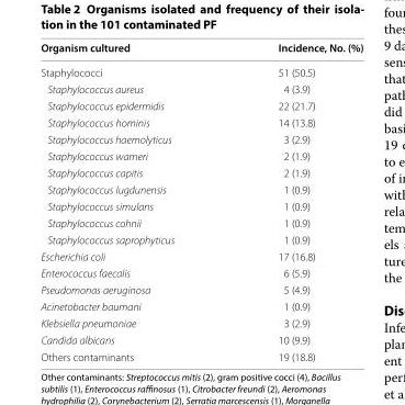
<table><thead><tr><td>Organism cultured</td><td>Incidence, No. (%)</td></tr></thead><tbody><tr><td>Staphylococci</td><td>51 (50.5)</td></tr><tr><td>Staphylococcus aureus</td><td>4 (3.9)</td></tr><tr><td>Staphylococcus epidermidis</td><td>22 (21.7)</td></tr><tr><td>Staphylococcus hominis</td><td>14 (13.8)</td></tr><tr><td>Staphylococcus haemolyticus</td><td>3 (2.9)</td></tr><tr><td>Staphylococcus warneri</td><td>2 (1.9)</td></tr><tr><td>Staphylococcus capitis</td><td>2 (1.9)</td></tr><tr><td>Staphylococcus lugdunensis</td><td>1 (0.9)</td></tr><tr><td>Staphylococcus simulans</td><td>1 (0.9)</td></tr><tr><td>Staphylococcus cohnii</td><td>1 (0.9)</td></tr><tr><td>Staphylococcus saprophyticus</td><td>1 (0.9)</td></tr><tr><td>Escherichia coli</td><td>17 (16.8)</td></tr><tr><td>Enterococcus faecalis</td><td>6 (5.9)</td></tr><tr><td>Pseudomonas aeruginosa</td><td>5 (4.9)</td></tr><tr><td>Acinetobacter baumani</td><td>1 (0.9)</td></tr><tr><td>Klebsiella pneumoniae</td><td>3 (2.9)</td></tr><tr><td>Candida albicans</td><td>10 (9.9)</td></tr><tr><td>Others contaminants</td><td>19 (18.8)</td></tr></tbody></table>